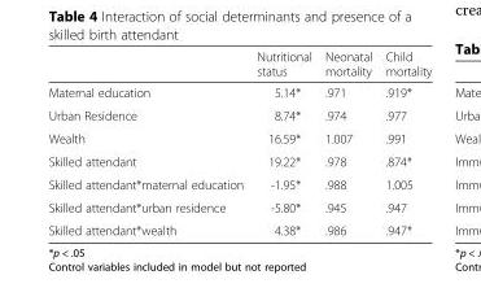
<table><thead><tr><td></td><td>Nutritional status</td><td>Neonatal mortality</td><td>Child mortality</td></tr></thead><tbody><tr><td>Maternal education</td><td>5.14*</td><td>.971</td><td>.919*</td></tr><tr><td>Urban Residence</td><td>8.74*</td><td>.974</td><td>.977</td></tr><tr><td>Wealth</td><td>16.59*</td><td>1.007</td><td>.991</td></tr><tr><td>Skilled attendant</td><td>19.22*</td><td>.978</td><td>.874*</td></tr><tr><td>Skilled attendant*maternal education</td><td>-1.95*</td><td>.988</td><td>1.005</td></tr><tr><td>Skilled attendant*urban residence</td><td>-5.80*</td><td>.945</td><td>.947</td></tr><tr><td>Skilled attendant*wealth</td><td>4.38*</td><td>.986</td><td>.947*</td></tr></tbody></table>